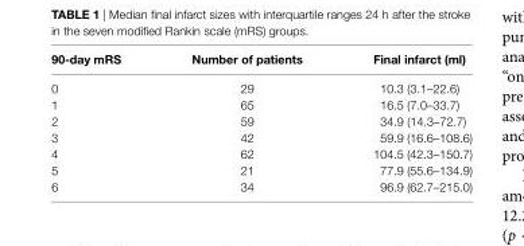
<table><thead><tr><td>90-day mrs</td><td>number of patients</td><td>Final infarct (ml)</td></tr></thead><tbody><tr><td>0</td><td>29</td><td>10.3 (3.1–22.6)</td></tr><tr><td>1</td><td>65</td><td>16.5 (7.0–33.7)</td></tr><tr><td>2</td><td>59</td><td>34.9 (14.3–72.7)</td></tr><tr><td>3</td><td>42</td><td>59.9 (16.6–108.6)</td></tr><tr><td>4</td><td>62</td><td>104.5 (42.3–150.7)</td></tr><tr><td>5</td><td>21</td><td>77.9 (55.6–134.9)</td></tr><tr><td>6</td><td>34</td><td>96.9 (62.7–215.0)</td></tr></tbody></table>